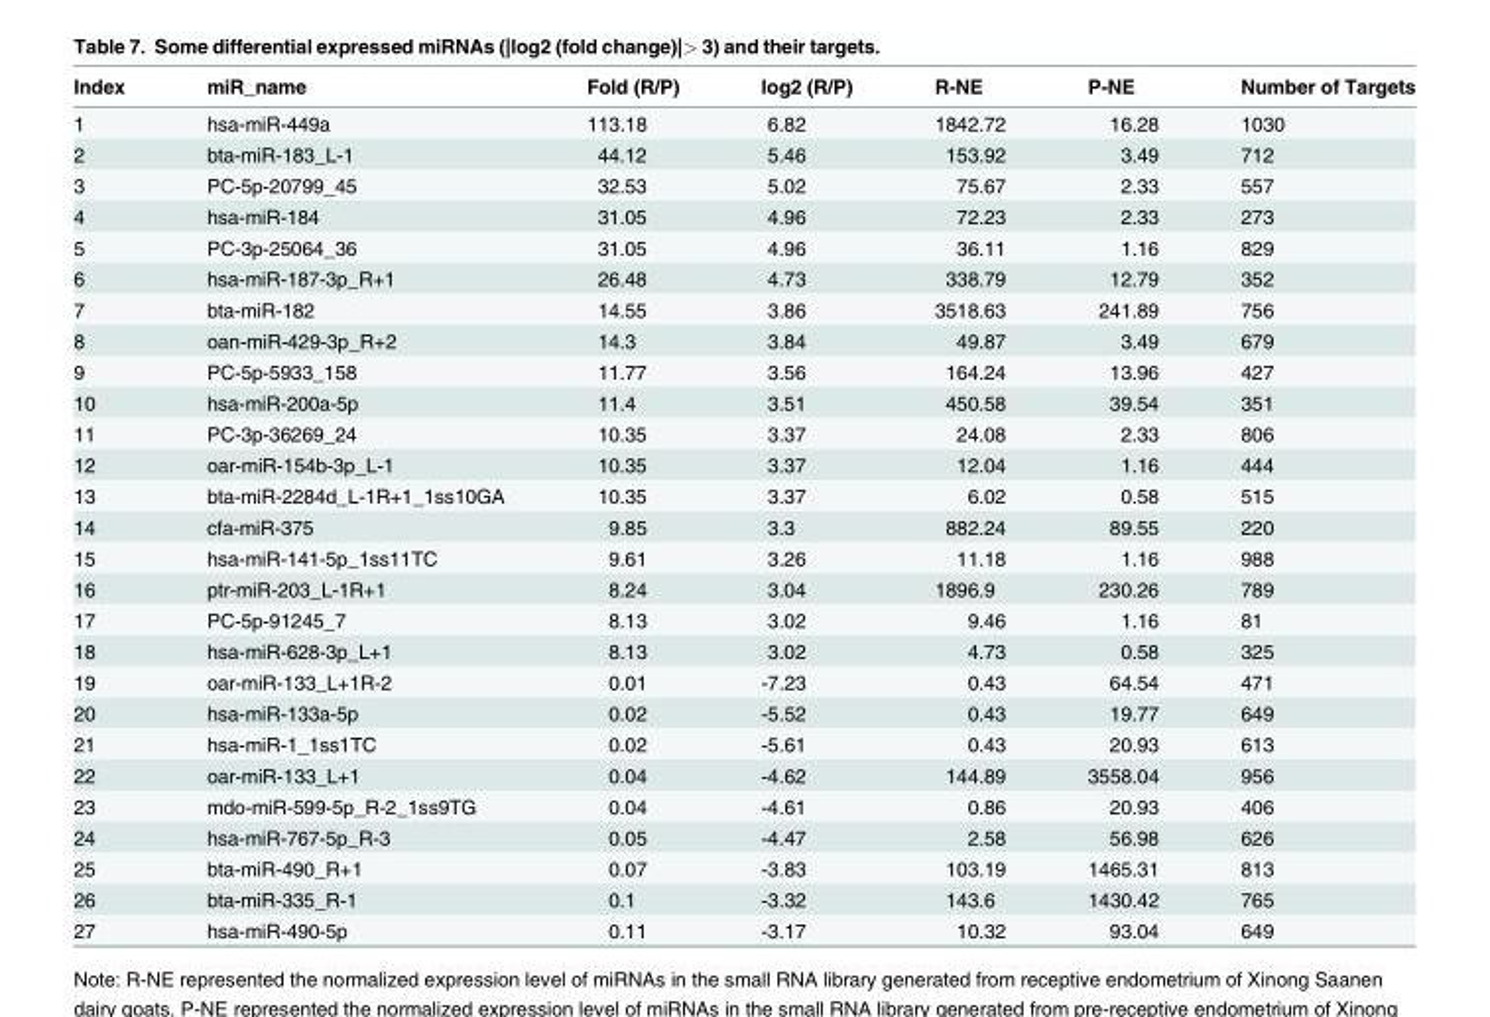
<table><thead><tr><td>Index</td><td>miR_name</td><td>Fold (R/P)</td><td>log2 (R/P)</td><td>R-NE</td><td>P-NE</td><td>Number of Targets</td></tr></thead><tbody><tr><td>1</td><td>hsa-miR-449a</td><td>113.18</td><td>6.82</td><td>1842.72</td><td>16.28</td><td>1030</td></tr><tr><td>2</td><td>bta-miR-183_L-1</td><td>44.12</td><td>5.46</td><td>153.92</td><td>3.49</td><td>712</td></tr><tr><td>3</td><td>PC-5p-20799_45</td><td>32.53</td><td>5.02</td><td>75.67</td><td>2.33</td><td>557</td></tr><tr><td>4</td><td>hsa-miR-184</td><td>31.05</td><td>4.96</td><td>72.23</td><td>2.33</td><td>273</td></tr><tr><td>5</td><td>PC-3p-25064_36</td><td>31.05</td><td>4.96</td><td>36.11</td><td>1.16</td><td>829</td></tr><tr><td>6</td><td>hsa-miR-187-3p_R+1</td><td>26.48</td><td>4.73</td><td>338.79</td><td>12.79</td><td>352</td></tr><tr><td>7</td><td>bta-miR-182</td><td>14.55</td><td>3.86</td><td>3518.63</td><td>241.89</td><td>756</td></tr><tr><td>8</td><td>oan-miR-429-3p_R+2</td><td>14.3</td><td>3.84</td><td>49.87</td><td>3.49</td><td>679</td></tr><tr><td>9</td><td>PC-5p-5933_158</td><td>11.77</td><td>3.56</td><td>164.24</td><td>13.96</td><td>427</td></tr><tr><td>10</td><td>hsa-miR-200a-5p</td><td>11.4</td><td>3.51</td><td>450.58</td><td>39.54</td><td>351</td></tr><tr><td>11</td><td>PC-3p-36269_24</td><td>10.35</td><td>3.37</td><td>24.08</td><td>2.33</td><td>806</td></tr><tr><td>12</td><td>oar-miR-154b-3p_L-1</td><td>10.35</td><td>3.37</td><td>12.04</td><td>1.16</td><td>444</td></tr><tr><td>13</td><td>bta-miR-2284d_L-1R+1_1ss10GA</td><td>10.35</td><td>3.37</td><td>6.02</td><td>0.58</td><td>515</td></tr><tr><td>14</td><td>cfa-miR-375</td><td>9.85</td><td>3.3</td><td>882.24</td><td>89.55</td><td>220</td></tr><tr><td>15</td><td>hsa-miR-141-5p_1ss11TC</td><td>9.61</td><td>3.26</td><td>11.18</td><td>1.16</td><td>988</td></tr><tr><td>16</td><td>ptr-miR-203_L-1R+1</td><td>8.24</td><td>3.04</td><td>1896.9</td><td>230.26</td><td>789</td></tr><tr><td>17</td><td>PC-5p-91245_7</td><td>8.13</td><td>3.02</td><td>9.46</td><td>1.16</td><td>81</td></tr><tr><td>18</td><td>hsa-miR-628-3p_L+1</td><td>8.13</td><td>3.02</td><td>4.73</td><td>0.58</td><td>325</td></tr><tr><td>19</td><td>oar-miR-133_L+1R-2</td><td>0.01</td><td>-7.23</td><td>0.43</td><td>64.54</td><td>471</td></tr><tr><td>20</td><td>hsa-miR-133a-5p</td><td>0.02</td><td>-5.52</td><td>0.43</td><td>19.77</td><td>649</td></tr><tr><td>21</td><td>hsa-miR-1_1ss1TC</td><td>0.02</td><td>-5.61</td><td>0.43</td><td>20.93</td><td>613</td></tr><tr><td>22</td><td>oar-miR-133_L+1</td><td>0.04</td><td>-4.62</td><td>144.89</td><td>3558.04</td><td>956</td></tr><tr><td>23</td><td>mdo-miR-599-5p_R-2_1ss9TG</td><td>0.04</td><td>-4.61</td><td>0.86</td><td>20.93</td><td>406</td></tr><tr><td>24</td><td>hsa-miR-767-5p_R-3</td><td>0.05</td><td>-4.47</td><td>2.58</td><td>56.98</td><td>626</td></tr><tr><td>25</td><td>bta-miR-490_R+1</td><td>0.07</td><td>-3.83</td><td>103.19</td><td>1465.31</td><td>813</td></tr><tr><td>26</td><td>bta-miR-335_R-1</td><td>0.1</td><td>-3.32</td><td>143.6</td><td>1430.42</td><td>765</td></tr><tr><td>27</td><td>hsa-miR-490-5p</td><td>0.11</td><td>-3.17</td><td>10.32</td><td>93.04</td><td>649</td></tr></tbody></table>